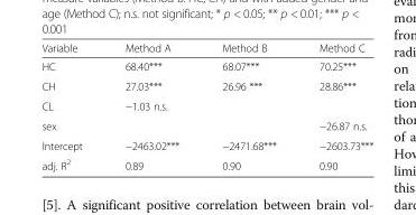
<table><thead><tr><td>Variable</td><td>Method A</td><td>Method B</td><td>Method C</td></tr></thead><tbody><tr><td>HC</td><td>68.40***</td><td>68.07***</td><td>70.25***</td></tr><tr><td>CH</td><td>27.03***</td><td>26.96 ***</td><td>28.86***</td></tr><tr><td>CL</td><td>−1.03 n.s.</td><td></td><td></td></tr><tr><td>sex</td><td></td><td></td><td>−26.87 n.s.</td></tr><tr><td>Intercept</td><td>−2463.02***</td><td>−2471.68***</td><td>−2603.73***</td></tr><tr><td>adj. R<sup>2</sup></td><td>0.89</td><td>0.90</td><td>0.90</td></tr></tbody></table>